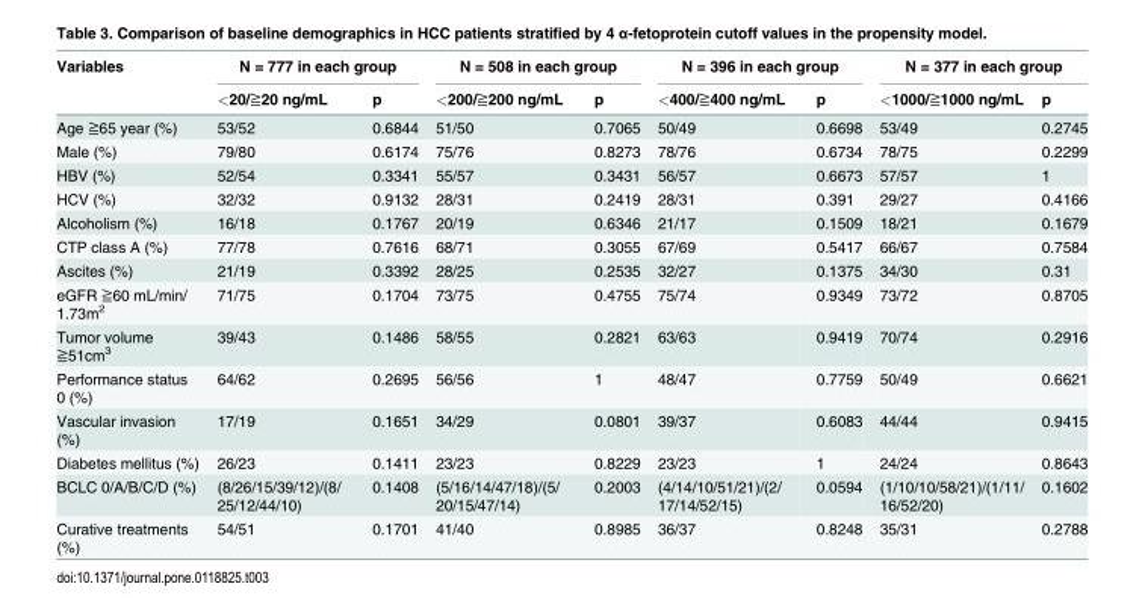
<table><thead><tr><td rowspan="2">Variables</td><td colspan="2">N = 777 in each group</td><td colspan="2">N = 508 in each group</td><td colspan="2">N = 396 in each group</td><td colspan="2">N = 377 in each group</td></tr><tr><td>&lt;20/≧20 ng/mL</td><td>p</td><td>&lt;200/≧200 ng/mL</td><td>p</td><td>&lt;400/≧400 ng/mL</td><td>p</td><td>&lt;1000/≧1000 ng/mL</td><td>p</td></tr></thead><tbody><tr><td>Age ≧65 year (%)</td><td>53/52</td><td>0.6844</td><td>51/50</td><td>0.7065</td><td>50/49</td><td>0.6698</td><td>53/49</td><td>0.2745</td></tr><tr><td>Male (%)</td><td>79/80</td><td>0.6174</td><td>75/76</td><td>0.8273</td><td>78/76</td><td>0.6734</td><td>78/75</td><td>0.2299</td></tr><tr><td>HBV (%)</td><td>52/54</td><td>0.3341</td><td>55/57</td><td>0.3431</td><td>56/57</td><td>0.6673</td><td>57/57</td><td>1</td></tr><tr><td>HCV (%)</td><td>32/32</td><td>0.9132</td><td>28/31</td><td>0.2419</td><td>28/31</td><td>0.391</td><td>29/27</td><td>0.4166</td></tr><tr><td>Alcoholism (%)</td><td>16/18</td><td>0.1767</td><td>20/19</td><td>0.6346</td><td>21/17</td><td>0.1509</td><td>18/21</td><td>0.1679</td></tr><tr><td>CTP class A (%)</td><td>77/78</td><td>0.7616</td><td>68/71</td><td>0.3055</td><td>67/69</td><td>0.5417</td><td>66/67</td><td>0.7584</td></tr><tr><td>Ascites (%)</td><td>21/19</td><td>0.3392</td><td>28/25</td><td>0.2535</td><td>32/27</td><td>0.1375</td><td>34/30</td><td>0.31</td></tr><tr><td>eGFR ≧60 mL/min/ 1.73m<sup>2</sup></td><td>71/75</td><td>0.1704</td><td>73/75</td><td>0.4755</td><td>75/74</td><td>0.9349</td><td>73/72</td><td>0.8705</td></tr><tr><td>Tumor volume ≧51cm<sup>3</sup></td><td>39/43</td><td>0.1486</td><td>58/55</td><td>0.2821</td><td>63/63</td><td>0.9419</td><td>70/74</td><td>0.2916</td></tr><tr><td>Performance status 0 (%)</td><td>64/62</td><td>0.2695</td><td>56/56</td><td>1</td><td>48/47</td><td>0.7759</td><td>50/49</td><td>0.6621</td></tr><tr><td>Vascular invasion (%)</td><td>17/19</td><td>0.1651</td><td>34/29</td><td>0.0801</td><td>39/37</td><td>0.6083</td><td>44/44</td><td>0.9415</td></tr><tr><td>Diabetes mellitus (%)</td><td>26/23</td><td>0.1411</td><td>23/23</td><td>0.8229</td><td>23/23</td><td>1</td><td>24/24</td><td>0.8643</td></tr><tr><td>BCLC 0/A/B/C/D (%)</td><td>(8/26/15/39/12)/(8/ 25/12/44/10)</td><td>0.1408</td><td>(5/16/14/47/18)/(5/ 20/15/47/14)</td><td>0.2003</td><td>(4/14/10/51/21)/(2/ 17/14/52/15)</td><td>0.0594</td><td>(1/10/10/58/21)/(1/11/ 16/52/20)</td><td>0.1602</td></tr><tr><td>Curative treatments (%)</td><td>54/51</td><td>0.1701</td><td>41/40</td><td>0.8985</td><td>36/37</td><td>0.8248</td><td>35/31</td><td>0.2788</td></tr></tbody></table>